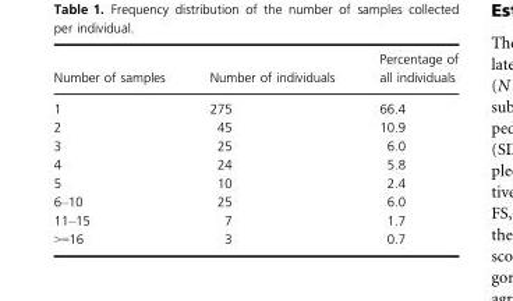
<table><thead><tr><td>Number of samples</td><td>Number of individuals</td><td>Percentage of all individuals</td></tr></thead><tbody><tr><td>1</td><td>275</td><td>66.4</td></tr><tr><td>2</td><td>45</td><td>10.9</td></tr><tr><td>3</td><td>25</td><td>6.0</td></tr><tr><td>4</td><td>24</td><td>5.8</td></tr><tr><td>5</td><td>10</td><td>2.4</td></tr><tr><td>6–10</td><td>25</td><td>6.0</td></tr><tr><td>11–15</td><td>7</td><td>1.7</td></tr><tr><td>&gt;=16</td><td>3</td><td>0.7</td></tr></tbody></table>